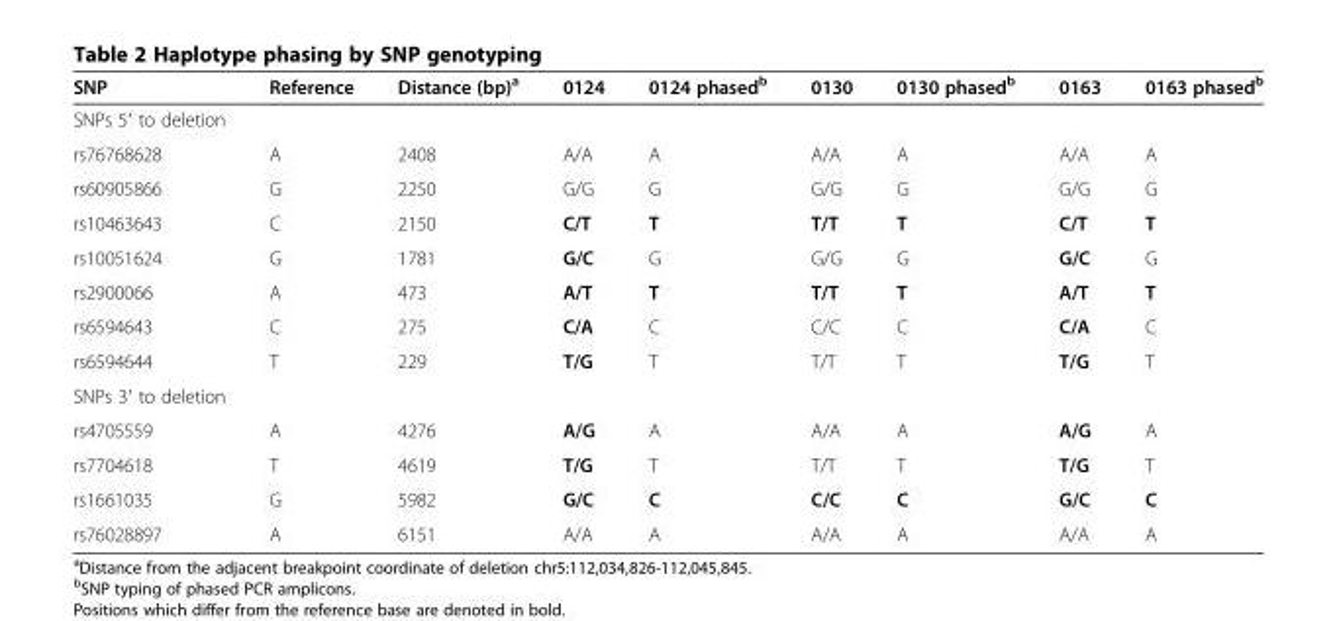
<table><thead><tr><td>SNP</td><td>Reference</td><td>Distance (bp)<sup>a</sup></td><td>0124</td><td>0124 phased<sup>b</sup></td><td>0130</td><td>0130 phased<sup>b</sup></td><td>0163</td><td>0163 phased<sup>b</sup></td></tr></thead><tbody><tr><td colspan="9">SNPs 5′ to deletion</td></tr><tr><td>rs76768628</td><td>A</td><td>2408</td><td>A/A</td><td>A</td><td>A/A</td><td>A</td><td>A/A</td><td>A</td></tr><tr><td>rs60905866</td><td>G</td><td>2250</td><td>G/G</td><td>G</td><td>G/G</td><td>G</td><td>G/G</td><td>G</td></tr><tr><td>rs10463643</td><td>C</td><td>2150</td><td>C/T</td><td>T</td><td>T/T</td><td>T</td><td>C/T</td><td>T</td></tr><tr><td>rs10051624</td><td>G</td><td>1781</td><td>G/C</td><td>G</td><td>G/G</td><td>G</td><td>G/C</td><td>G</td></tr><tr><td>rs2900066</td><td>A</td><td>473</td><td>A/T</td><td>T</td><td>T/T</td><td>T</td><td>A/T</td><td>T</td></tr><tr><td>rs6594643</td><td>C</td><td>275</td><td>C/A</td><td>C</td><td>C/C</td><td>C</td><td>C/A</td><td>C</td></tr><tr><td>rs6594644</td><td>T</td><td>229</td><td>T/G</td><td>T</td><td>T/T</td><td>T</td><td>T/G</td><td>T</td></tr><tr><td colspan="9">SNPs 3′ to deletion</td></tr><tr><td>rs4705559</td><td>A</td><td>4276</td><td>A/G</td><td>A</td><td>A/A</td><td>A</td><td>A/G</td><td>A</td></tr><tr><td>rs7704618</td><td>T</td><td>4619</td><td>T/G</td><td>T</td><td>T/T</td><td>T</td><td>T/G</td><td>T</td></tr><tr><td>rs1661035</td><td>G</td><td>5982</td><td>G/C</td><td>C</td><td>C/C</td><td>C</td><td>G/C</td><td>C</td></tr><tr><td>rs76028897</td><td>A</td><td>6151</td><td>A/A</td><td>A</td><td>A/A</td><td>A</td><td>A/A</td><td>A</td></tr></tbody></table>